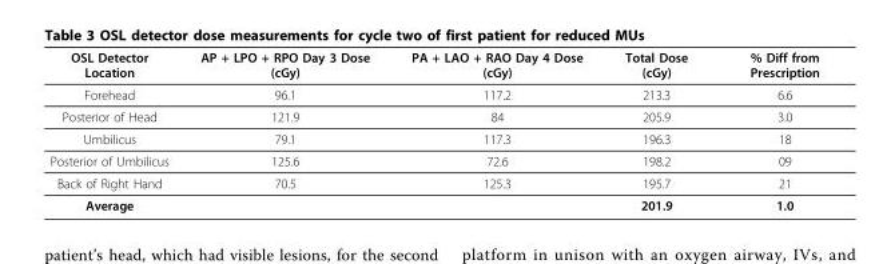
<table><thead><tr><td>OSL Detector Location</td><td>AP + LPO + RPO Day 3 Dose (cGy)</td><td>PA + LAO + RAO Day 4 Dose (cGy)</td><td>Total Dose (cGy)</td><td>% Diff from Prescription</td></tr></thead><tbody><tr><td>Forehead</td><td>96.1</td><td>117.2</td><td>213.3</td><td>6.6</td></tr><tr><td>Posterior of Head</td><td>121.9</td><td>84</td><td>205.9</td><td>3.0</td></tr><tr><td>Umbilicus</td><td>79.1</td><td>117.3</td><td>196.3</td><td>18</td></tr><tr><td>Posterior of Umbilicus</td><td>125.6</td><td>72.6</td><td>198.2</td><td>09</td></tr><tr><td>Back of Right Hand</td><td>70.5</td><td>125.3</td><td>195.7</td><td>21</td></tr><tr><td>Average</td><td></td><td></td><td>201.9</td><td>1.0</td></tr></tbody></table>